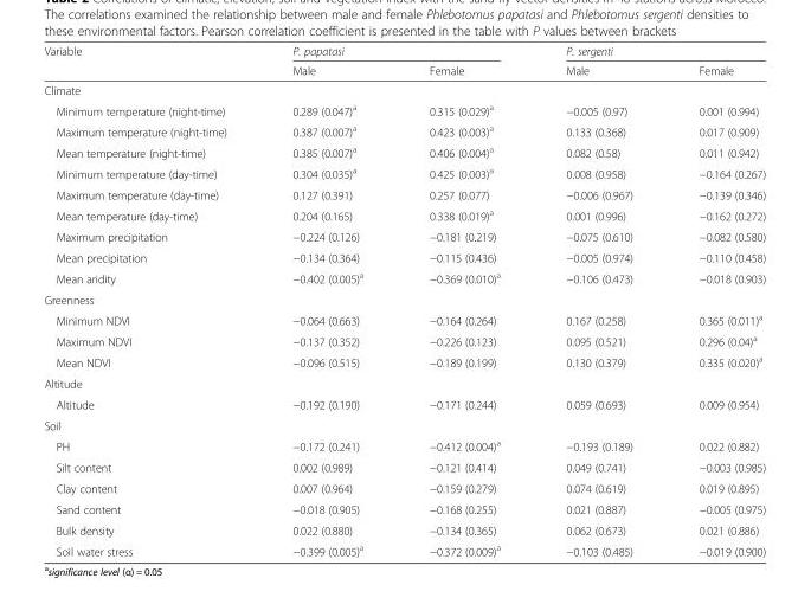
<table><thead><tr><td rowspan="2">Variable</td><td colspan="2">P. papatasi</td><td colspan="2">P. sergenti</td></tr><tr><td>Male</td><td>Female</td><td>Male</td><td>Female</td></tr></thead><tbody><tr><td colspan="5">Climate</td></tr><tr><td>Minimum temperature (night-time)</td><td>0.289 (0.047)<sup>a</sup></td><td>0.315 (0.029)<sup>a</sup></td><td>−0.005 (0.97)</td><td>0.001 (0.994)</td></tr><tr><td>Maximum temperature (night-time)</td><td>0.387 (0.007)<sup>a</sup></td><td>0.423 (0.003)<sup>a</sup></td><td>0.133 (0.368)</td><td>0.017 (0.909)</td></tr><tr><td>Mean temperature (night-time)</td><td>0.385 (0.007)<sup>a</sup></td><td>0.406 (0.004)<sup>a</sup></td><td>0.082 (0.58)</td><td>0.011 (0.942)</td></tr><tr><td>Minimum temperature (day-time)</td><td>0.304 (0.035)<sup>a</sup></td><td>0.425 (0.003)<sup>a</sup></td><td>0.008 (0.958)</td><td>−0.164 (0.267)</td></tr><tr><td>Maximum temperature (day-time)</td><td>0.127 (0.391)</td><td>0.257 (0.077)</td><td>−0.006 (0.967)</td><td>−0.139 (0.346)</td></tr><tr><td>Mean temperature (day-time)</td><td>0.204 (0.165)</td><td>0.338 (0.019)<sup>a</sup></td><td>0.001 (0.996)</td><td>−0.162 (0.272)</td></tr><tr><td>Maximum precipitation</td><td>−0.224 (0.126)</td><td>−0.181 (0.219)</td><td>−0.075 (0.610)</td><td>−0.082 (0.580)</td></tr><tr><td>Mean precipitation</td><td>−0.134 (0.364)</td><td>−0.115 (0.436)</td><td>−0.005 (0.974)</td><td>−0.110 (0.458)</td></tr><tr><td>Mean aridity</td><td>−0.402 (0.005)<sup>a</sup></td><td>−0.369 (0.010)<sup>a</sup></td><td>−0.106 (0.473)</td><td>−0.018 (0.903)</td></tr><tr><td colspan="5">Greenness</td></tr><tr><td>Minimum NDVI</td><td>−0.064 (0.663)</td><td>−0.164 (0.264)</td><td>0.167 (0.258)</td><td>0.365 (0.011)<sup>a</sup></td></tr><tr><td>Maximum NDVI</td><td>−0.137 (0.352)</td><td>−0.226 (0.123)</td><td>0.095 (0.521)</td><td>0.296 (0.04)<sup>a</sup></td></tr><tr><td>Mean NDVI</td><td>−0.096 (0.515)</td><td>−0.189 (0.199)</td><td>0.130 (0.379)</td><td>0.335 (0.020)<sup>a</sup></td></tr><tr><td colspan="5">Altitude</td></tr><tr><td>Altitude</td><td>−0.192 (0.190)</td><td>−0.171 (0.244)</td><td>0.059 (0.693)</td><td>0.009 (0.954)</td></tr><tr><td colspan="5">Soil</td></tr><tr><td>PH</td><td>−0.172 (0.241)</td><td>−0.412 (0.004)<sup>a</sup></td><td>−0.193 (0.189)</td><td>0.022 (0.882)</td></tr><tr><td>Silt content</td><td>0.002 (0.989)</td><td>−0.121 (0.414)</td><td>0.049 (0.741)</td><td>−0.003 (0.985)</td></tr><tr><td>Clay content</td><td>0.007 (0.964)</td><td>−0.159 (0.279)</td><td>0.074 (0.619)</td><td>0.019 (0.895)</td></tr><tr><td>Sand content</td><td>−0.018 (0.905)</td><td>−0.168 (0.255)</td><td>0.021 (0.887)</td><td>−0.005 (0.975)</td></tr><tr><td>Bulk density</td><td>0.022 (0.880)</td><td>−0.134 (0.365)</td><td>0.062 (0.673)</td><td>0.021 (0.886)</td></tr><tr><td>Soil water stress</td><td>−0.399 (0.005)<sup>a</sup></td><td>−0.372 (0.009)<sup>a</sup></td><td>−0.103 (0.485)</td><td>−0.019 (0.900)</td></tr></tbody></table>